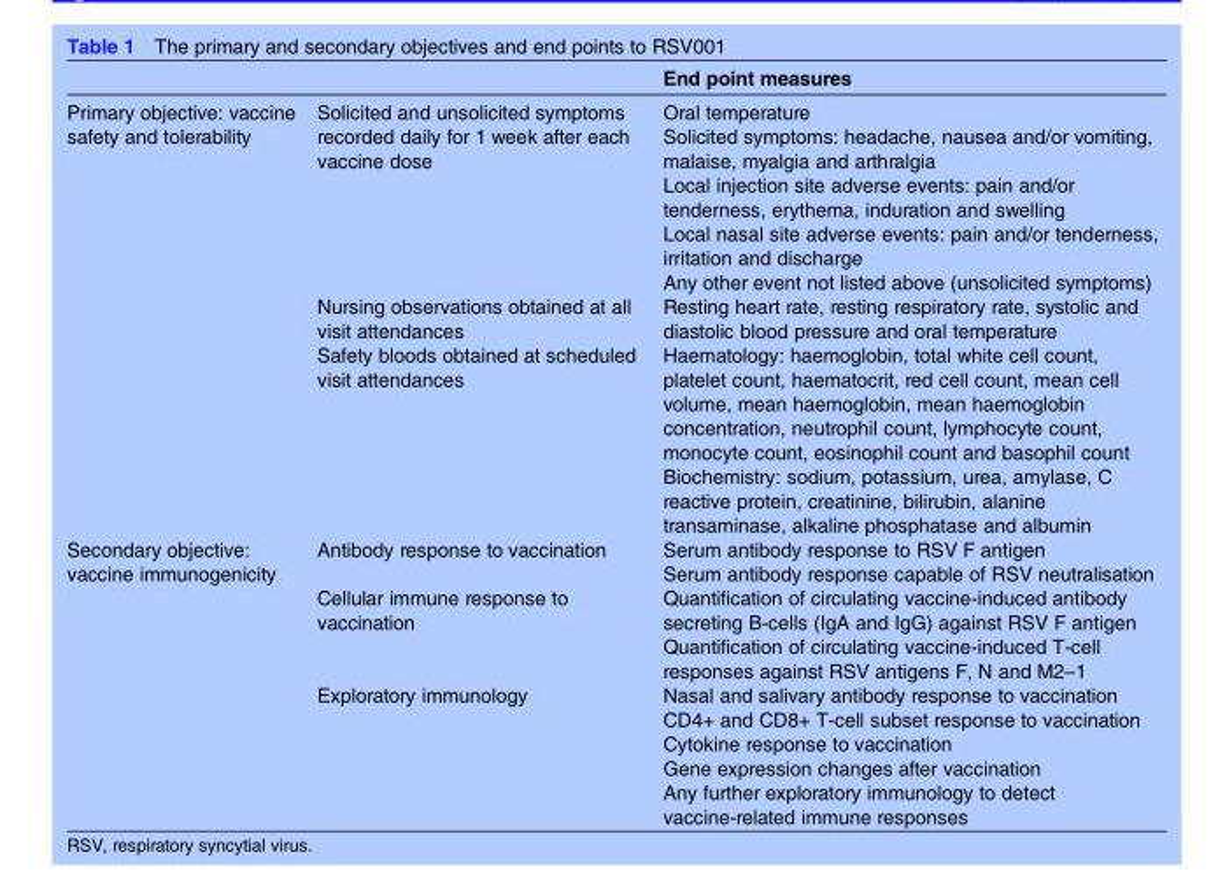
<table><thead><tr><td></td><td></td><td>End point measures</td></tr></thead><tbody><tr><td rowspan="3">Primary objective: vaccine safety and tolerability</td><td>Solicited and unsolicited symptoms recorded daily for 1 week after each vaccine dose</td><td>Oral temperature Solicited symptoms: headache, nausea and/or vomiting, malaise, myalgia and arthralgia Local injection site adverse events: pain and/or tenderness, erythema, induration and swelling Local nasal site adverse events: pain and/or tenderness, irritation and discharge Any other event not listed above (unsolicited symptoms)</td></tr><tr><td>Nursing observations obtained at all visit attendances</td><td>Resting heart rate, resting respiratory rate, systolic and diastolic blood pressure and oral temperature</td></tr><tr><td>Safety bloods obtained at scheduled visit attendances</td><td>Haematology: haemoglobin, total white cell count, platelet count, haematocrit, red cell count, mean cell volume, mean haemoglobin, mean haemoglobin concentration, neutrophil count, lymphocyte count, monocyte count, eosinophil count and basophil count Biochemistry: sodium, potassium, urea, amylase, C reactive protein, creatinine, bilirubin, alanine transaminase, alkaline phosphatase and albumin</td></tr><tr><td rowspan="3">Secondary objective: vaccine immunogenicity</td><td>Antibody response to vaccination</td><td>Serum antibody response to RSV F antigen Serum antibody response capable of RSV neutralisation</td></tr><tr><td>Cellular immune response to vaccination</td><td>Quantification of circulating vaccine-induced antibody secreting B-cells (IgA and IgG) against RSV F antigen Quantification of circulating vaccine-induced T-cell responses against RSV antigens F, N and M2–1</td></tr><tr><td>Exploratory immunology</td><td>Nasal and salivary antibody response to vaccination CD4+ and CD8+ T-cell subset response to vaccination Cytokine response to vaccination Gene expression changes after vaccination Any further exploratory immunology to detect vaccine-related immune responses</td></tr></tbody></table>